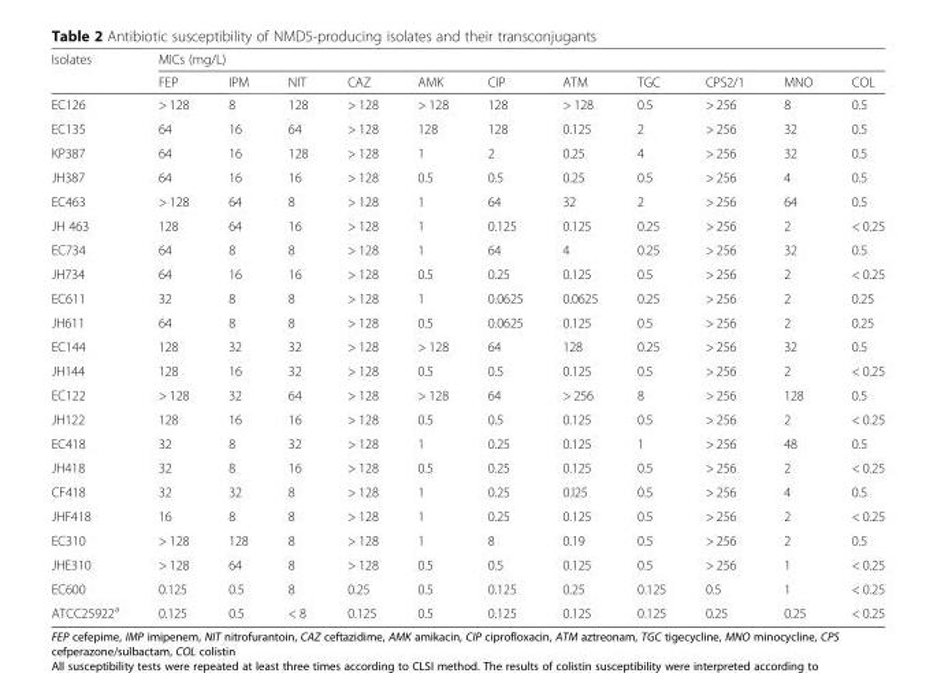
<table><thead><tr><td rowspan="2">Isolates</td><td colspan="11">MICs (mg/L)</td></tr><tr><td>FEP</td><td>IPM</td><td>NIT</td><td>CAZ</td><td>AMK</td><td>CIP</td><td>ATM</td><td>TGC</td><td>CPS2/1</td><td>MNO</td><td>COL</td></tr></thead><tbody><tr><td>EC126</td><td>&gt; 128</td><td>8</td><td>128</td><td>&gt; 128</td><td>&gt; 128</td><td>128</td><td>&gt; 128</td><td>0.5</td><td>&gt; 256</td><td>8</td><td>0.5</td></tr><tr><td>EC135</td><td>64</td><td>16</td><td>64</td><td>&gt; 128</td><td>128</td><td>128</td><td>0.125</td><td>2</td><td>&gt; 256</td><td>32</td><td>0.5</td></tr><tr><td>KP387</td><td>64</td><td>16</td><td>128</td><td>&gt; 128</td><td>1</td><td>2</td><td>0.25</td><td>4</td><td>&gt; 256</td><td>32</td><td>0.5</td></tr><tr><td>JH387</td><td>64</td><td>16</td><td>16</td><td>&gt; 128</td><td>0.5</td><td>0.5</td><td>0.25</td><td>0.5</td><td>&gt; 256</td><td>4</td><td>0.5</td></tr><tr><td>EC463</td><td>&gt; 128</td><td>64</td><td>8</td><td>&gt; 128</td><td>1</td><td>64</td><td>32</td><td>2</td><td>&gt; 256</td><td>64</td><td>0.5</td></tr><tr><td>JH 463</td><td>128</td><td>64</td><td>16</td><td>&gt; 128</td><td>1</td><td>0.125</td><td>0.125</td><td>0.25</td><td>&gt; 256</td><td>2</td><td>&lt; 0.25</td></tr><tr><td>EC734</td><td>64</td><td>8</td><td>8</td><td>&gt; 128</td><td>1</td><td>64</td><td>4</td><td>0.25</td><td>&gt; 256</td><td>32</td><td>0.5</td></tr><tr><td>JH734</td><td>64</td><td>16</td><td>16</td><td>&gt; 128</td><td>0.5</td><td>0.25</td><td>0.125</td><td>0.5</td><td>&gt; 256</td><td>2</td><td>&lt; 0.25</td></tr><tr><td>EC611</td><td>32</td><td>8</td><td>8</td><td>&gt; 128</td><td>1</td><td>0.0625</td><td>0.0625</td><td>0.25</td><td>&gt; 256</td><td>2</td><td>0.25</td></tr><tr><td>JH611</td><td>64</td><td>8</td><td>8</td><td>&gt; 128</td><td>0.5</td><td>0.0625</td><td>0.125</td><td>0.5</td><td>&gt; 256</td><td>2</td><td>0.25</td></tr><tr><td>EC144</td><td>128</td><td>32</td><td>32</td><td>&gt; 128</td><td>&gt; 128</td><td>64</td><td>128</td><td>0.25</td><td>&gt; 256</td><td>32</td><td>0.5</td></tr><tr><td>JH144</td><td>128</td><td>16</td><td>32</td><td>&gt; 128</td><td>0.5</td><td>0.5</td><td>0.125</td><td>0.5</td><td>&gt; 256</td><td>2</td><td>&lt; 0.25</td></tr><tr><td>EC122</td><td>&gt; 128</td><td>32</td><td>64</td><td>&gt; 128</td><td>&gt; 128</td><td>64</td><td>&gt; 256</td><td>8</td><td>&gt; 256</td><td>128</td><td>0.5</td></tr><tr><td>JH122</td><td>128</td><td>16</td><td>16</td><td>&gt; 128</td><td>0.5</td><td>0.5</td><td>0.125</td><td>0.5</td><td>&gt; 256</td><td>2</td><td>&lt; 0.25</td></tr><tr><td>EC418</td><td>32</td><td>8</td><td>32</td><td>&gt; 128</td><td>1</td><td>0.25</td><td>0.125</td><td>1</td><td>&gt; 256</td><td>48</td><td>0.5</td></tr><tr><td>JH418</td><td>32</td><td>8</td><td>16</td><td>&gt; 128</td><td>0.5</td><td>0.25</td><td>0.125</td><td>0.5</td><td>&gt; 256</td><td>2</td><td>&lt; 0.25</td></tr><tr><td>CF418</td><td>32</td><td>32</td><td>8</td><td>&gt; 128</td><td>1</td><td>0.25</td><td>0.l25</td><td>0.5</td><td>&gt; 256</td><td>4</td><td>0.5</td></tr><tr><td>JHF418</td><td>16</td><td>8</td><td>8</td><td>&gt; 128</td><td>1</td><td>0.25</td><td>0.125</td><td>0.5</td><td>&gt; 256</td><td>2</td><td>&lt; 0.25</td></tr><tr><td>EC310</td><td>&gt; 128</td><td>128</td><td>8</td><td>&gt; 128</td><td>1</td><td>8</td><td>0.19</td><td>0.5</td><td>&gt; 256</td><td>2</td><td>0.5</td></tr><tr><td>JHE310</td><td>&gt; 128</td><td>64</td><td>8</td><td>&gt; 128</td><td>0.5</td><td>0.5</td><td>0.125</td><td>0.5</td><td>&gt; 256</td><td>1</td><td>&lt; 0.25</td></tr><tr><td>EC600</td><td>0.125</td><td>0.5</td><td>8</td><td>0.25</td><td>0.5</td><td>0.125</td><td>0.25</td><td>0.125</td><td>0.5</td><td>1</td><td>&lt; 0.25</td></tr><tr><td>ATCC25922<sup>a</sup></td><td>0.125</td><td>0.5</td><td>&lt; 8</td><td>0.125</td><td>0.5</td><td>0.125</td><td>0.125</td><td>0.125</td><td>0.25</td><td>0.25</td><td>&lt; 0.25</td></tr></tbody></table>